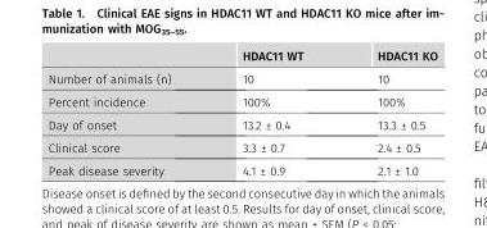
<table><thead><tr><td></td><td>HDAC11 WT</td><td>HDAC11 KO</td></tr></thead><tbody><tr><td>Number of animals (n)</td><td>10</td><td>10</td></tr><tr><td>Percent incidence</td><td>100%</td><td>100%</td></tr><tr><td>Day of onset</td><td>13.2 ± 0.4</td><td>13.3 ± 0.5</td></tr><tr><td>Clinical score</td><td>3.3 ± 0.7</td><td>2.4 ± 0.5</td></tr><tr><td>Peak disease severity</td><td>4.1 ± 0.9</td><td>2.1 ± 1.0</td></tr></tbody></table>